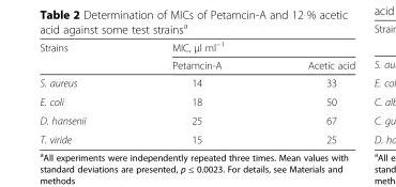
<table><thead><tr><td rowspan="2">Strains</td><td colspan="2">MIC, μl ml<sup>−1</sup></td></tr><tr><td>Petamcin-A</td><td>Acetic acid</td></tr></thead><tbody><tr><td>S. aureus</td><td>14</td><td>33</td></tr><tr><td>E. coli</td><td>18</td><td>50</td></tr><tr><td>D. hansenii</td><td>25</td><td>67</td></tr><tr><td>T. viride</td><td>15</td><td>25</td></tr></tbody></table>